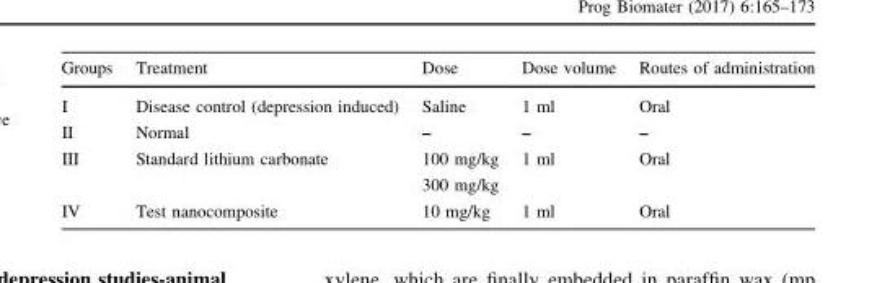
<table><thead><tr><td>Groups</td><td>Treatment</td><td>Dose</td><td>Dose volume</td><td>Routes of administration</td></tr></thead><tbody><tr><td>I</td><td>Disease control (depression induced)</td><td>Saline</td><td>1 ml</td><td>Oral</td></tr><tr><td>II</td><td>Normal</td><td>–</td><td>–</td><td>–</td></tr><tr><td>III</td><td>Standard lithium carbonate</td><td>100 mg/kg 300 mg/kg</td><td>1 ml</td><td>Oral</td></tr><tr><td>IV</td><td>Test nanocomposite</td><td>10 mg/kg</td><td>1 ml</td><td>Oral</td></tr></tbody></table>